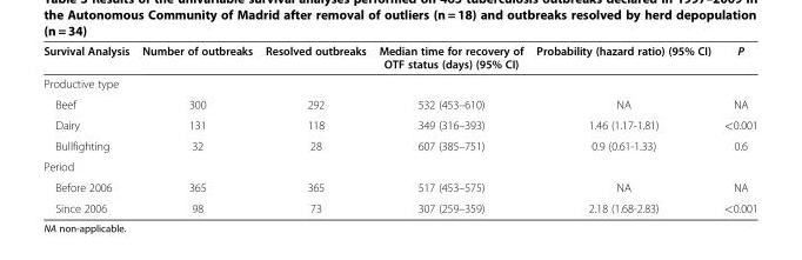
<table><thead><tr><td>Survival Analysis</td><td>Number of outbreaks</td><td>Resolved outbreaks</td><td>Median time for recovery of OTF status (days) (95% CI)</td><td>Probability (hazard ratio) (95% CI)</td><td>P</td></tr></thead><tbody><tr><td colspan="6">Productive type</td></tr><tr><td>Beef</td><td>300</td><td>292</td><td>532 (453–610)</td><td>NA</td><td>NA</td></tr><tr><td>Dairy</td><td>131</td><td>118</td><td>349 (316–393)</td><td>1.46 (1.17-1.81)</td><td>&lt;0.001</td></tr><tr><td>Bullfighting</td><td>32</td><td>28</td><td>607 (385–751)</td><td>0.9 (0.61-1.33)</td><td>0.6</td></tr><tr><td colspan="6">Period</td></tr><tr><td>Before 2006</td><td>365</td><td>365</td><td>517 (453–575)</td><td>NA</td><td>NA</td></tr><tr><td>Since 2006</td><td>98</td><td>73</td><td>307 (259–359)</td><td>2.18 (1.68-2.83)</td><td>&lt;0.001</td></tr></tbody></table>